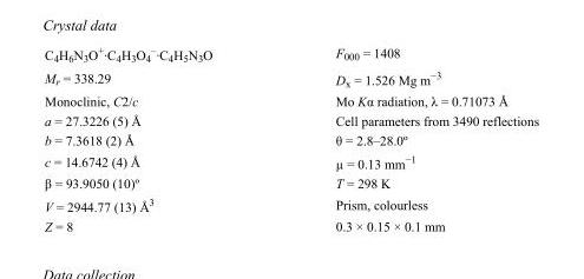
<table><tbody><tr><td>C<sub>4</sub>H<sub>6</sub>N<sub>3</sub>O<sup>+</sup>·C<sub>4</sub>H<sub>3</sub>O<sub>4</sub> <sup>–</sup>·C<sub>4</sub>H<sub>5</sub>N<sub>3</sub>O</td><td>F000 = 1408</td></tr><tr><td>M<sub>r</sub> = 338.29</td><td>D<sub>x</sub> = 1.526 Mg m<sup>−3</sup></td></tr><tr><td>Monoclinic, C2/c</td><td>Mo Kα radiation, λ = 0.71073 Å</td></tr><tr><td>a = 27.3226 (5) Å</td><td>Cell parameters from 3490 reflections</td></tr><tr><td>b = 7.3618 (2) Å</td><td>θ = 2.8–28.0º</td></tr><tr><td>c = 14.6742 (4) Å</td><td>µ = 0.13 mm<sup>−1</sup></td></tr><tr><td>β = 93.9050 (10)º</td><td>T = 298 K</td></tr><tr><td>V = 2944.77 (13) Å<sup>3</sup></td><td>Prism, colourless</td></tr><tr><td>Z = 8</td><td>0.3 × 0.15 × 0.1 mm</td></tr></tbody></table>